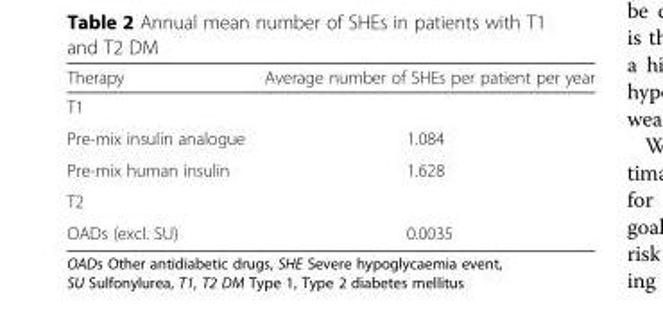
<table><thead><tr><td>Therapy</td><td>Average number of SHEs per patient per year</td></tr></thead><tbody><tr><td colspan="2">T1</td></tr><tr><td>Pre-mix insulin analogue</td><td>1.084</td></tr><tr><td>Pre-mix human insulin</td><td>1.628</td></tr><tr><td colspan="2">T2</td></tr><tr><td>OADs (excl. SU)</td><td>0.0035</td></tr></tbody></table>